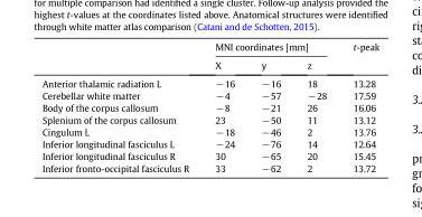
<table><thead><tr><td rowspan="2"></td><td colspan="3">MNI coordinates [mm]</td><td rowspan="2">t-peak</td></tr><tr><td>X</td><td>y</td><td>z</td></tr></thead><tbody><tr><td>Anterior thalamic radiation L</td><td>−16</td><td>−16</td><td>18</td><td>13.28</td></tr><tr><td>Cerebellar white matter</td><td>−4</td><td>−57</td><td>−28</td><td>17.59</td></tr><tr><td>Body of the corpus callosum</td><td>−8</td><td>−21</td><td>26</td><td>16.06</td></tr><tr><td>Splenium of the corpus callosum</td><td>23</td><td>−50</td><td>11</td><td>13.12</td></tr><tr><td>Cingulum L</td><td>−18</td><td>−46</td><td>2</td><td>13.76</td></tr><tr><td>Inferior longitudinal fasciculus L</td><td>−24</td><td>−76</td><td>14</td><td>12.64</td></tr><tr><td>Inferior longitudinal fasciculus R</td><td>30</td><td>−65</td><td>20</td><td>15.45</td></tr><tr><td>Inferior fronto-occipital fasciculus R</td><td>33</td><td>−62</td><td>2</td><td>13.72</td></tr></tbody></table>